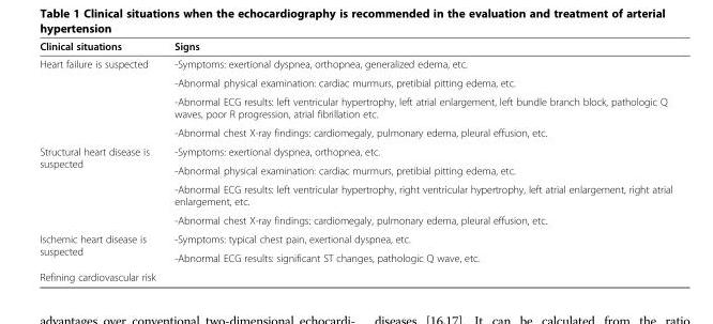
<table><thead><tr><td>Clinical situations</td><td>Signs</td></tr></thead><tbody><tr><td rowspan="4">Heart failure is suspected</td><td>-Symptoms: exertional dyspnea, orthopnea, generalized edema, etc.</td></tr><tr><td>-Abnormal physical examination: cardiac murmurs, pretibial pitting edema, etc.</td></tr><tr><td>-Abnormal ECG results: left ventricular hypertrophy, left atrial enlargement, left bundle branch block, pathologic Q waves, poor R progression, atrial fibrillation etc.</td></tr><tr><td>-Abnormal chest X-ray findings: cardiomegaly, pulmonary edema, pleural effusion, etc.</td></tr><tr><td rowspan="4">Structural heart disease is suspected</td><td>-Symptoms: exertional dyspnea, orthopnea, etc.</td></tr><tr><td>-Abnormal physical examination: cardiac murmurs, pretibial pitting edema, etc.</td></tr><tr><td>-Abnormal ECG results: left ventricular hypertrophy, right ventricular hypertrophy, left atrial enlargement, right atrial enlargement, etc.</td></tr><tr><td>-Abnormal chest X-ray findings: cardiomegaly, pulmonary edema, pleural effusion, etc.</td></tr><tr><td rowspan="2">Ischemic heart disease is suspected</td><td>-Symptoms: typical chest pain, exertional dyspnea, etc.</td></tr><tr><td>-Abnormal ECG results: significant ST changes, pathologic Q wave, etc.</td></tr><tr><td>Refining cardiovascular risk</td><td></td></tr></tbody></table>